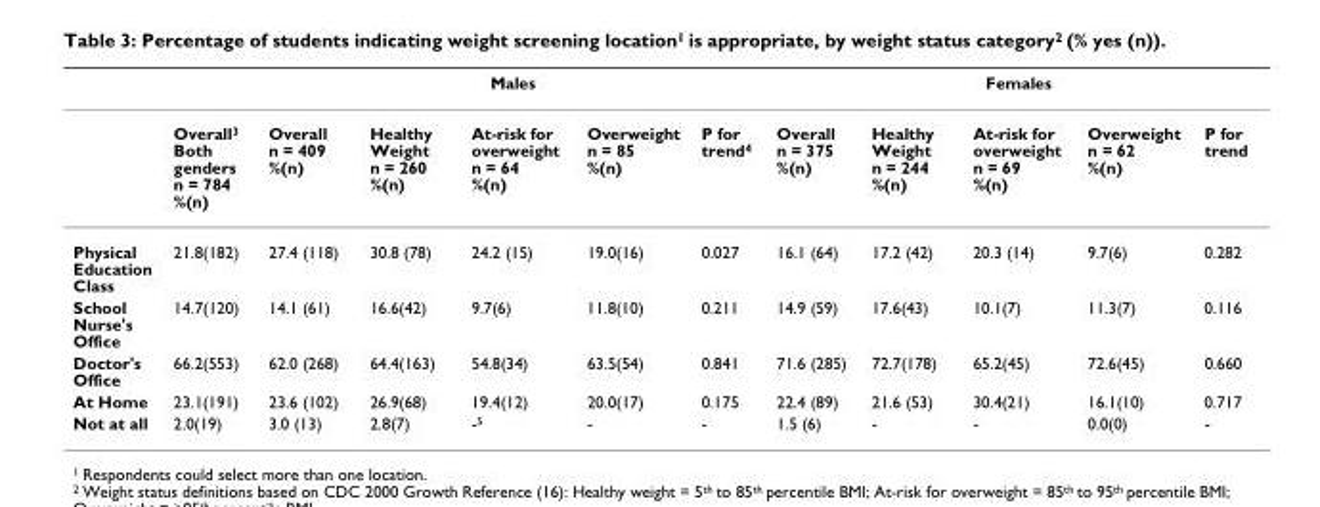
<table><thead><tr><td rowspan="2"></td><td rowspan="2">Overall<sup>3</sup> Both genders n = 784 %(n)</td><td colspan="5">Males</td><td colspan="5">Females</td></tr><tr><td>Overall n = 409 %(n)</td><td>Healthy Weight n = 260 %(n)</td><td>At-risk for overweight n = 64 %(n)</td><td>Overweight n = 85 %(n)</td><td>P for trend<sup>4</sup></td><td>Overall n = 375 %(n)</td><td>Healthy Weight n = 244 %(n)</td><td>At-risk for overweight n = 69 %(n)</td><td>Overweight n = 62 %(n)</td><td>P for trend</td></tr></thead><tbody><tr><td>Physical Education Class</td><td>21.8(182)</td><td>27.4 (118)</td><td>30.8 (78)</td><td>24.2 (15)</td><td>19.0(16)</td><td>0.027</td><td>16.1 (64)</td><td>17.2 (42)</td><td>20.3 (14)</td><td>9.7(6)</td><td>0.282</td></tr><tr><td>School Nurse&#x27;s Office</td><td>14.7(120)</td><td>14.1 (61)</td><td>16.6(42)</td><td>9.7(6)</td><td>11.8(10)</td><td>0.211</td><td>14.9 (59)</td><td>17.6(43)</td><td>10.1(7)</td><td>11.3(7)</td><td>0.116</td></tr><tr><td>Doctor&#x27;s Office</td><td>66.2(553)</td><td>62.0 (268)</td><td>64.4(163)</td><td>54.8(34)</td><td>63.5(54)</td><td>0.841</td><td>71.6 (285)</td><td>72.7(178)</td><td>65.2(45)</td><td>72.6(45)</td><td>0.660</td></tr><tr><td>At Home</td><td>23.1(191)</td><td>23.6 (102)</td><td>26.9(68)</td><td>19.4(12)</td><td>20.0(17)</td><td>0.175</td><td>22.4 (89)</td><td>21.6 (53)</td><td>30.4(21)</td><td>16.1(10)</td><td>0.717</td></tr><tr><td>Not at all</td><td>2.0(19)</td><td>3.0 (13)</td><td>2.8(7)</td><td>-<sup>5</sup></td><td>-</td><td>-</td><td>1.5 (6)</td><td>-</td><td>-</td><td>0.0(0)</td><td>-</td></tr></tbody></table>